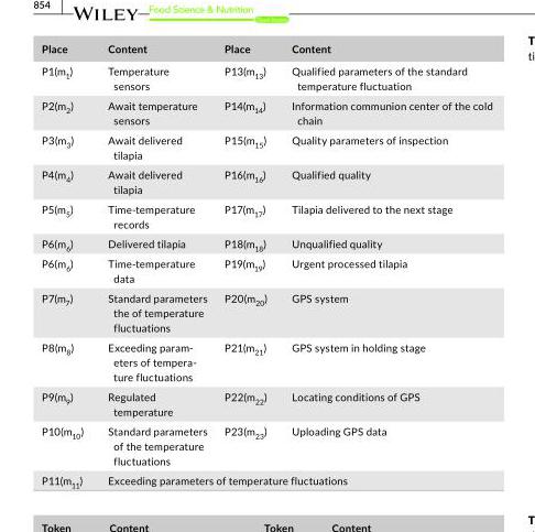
<table><thead><tr><td>Place</td><td>Content</td><td>Place</td><td>Content</td></tr></thead><tbody><tr><td>P1(m<sub>1</sub>)</td><td>Temperature sensors</td><td>P13(m<sub>13</sub>)</td><td>Qualified parameters of the standard temperature fluctuation</td></tr><tr><td>P2(m<sub>2</sub>)</td><td>Await temperature sensors</td><td>P14(m<sub>14</sub>)</td><td>Information communion center of the cold chain</td></tr><tr><td>P3(m<sub>3</sub>)</td><td>Await delivered tilapia</td><td>P15(m<sub>15</sub>)</td><td>Quality parameters of inspection</td></tr><tr><td>P4(m<sub>4</sub>)</td><td>Await delivered tilapia</td><td>P16(m<sub>16</sub>)</td><td>Qualified quality</td></tr><tr><td>P5(m<sub>5</sub>)</td><td>Time- temperature records</td><td>P17(m<sub>17</sub>)</td><td>Tilapia delivered to the next stage</td></tr><tr><td>P6(m<sub>6</sub>)</td><td>Delivered tilapia</td><td>P18(m<sub>18</sub>)</td><td>Unqualified quality</td></tr><tr><td>P6(m<sub>6</sub>)</td><td>Time- temperature data</td><td>P19(m<sub>19</sub>)</td><td>Urgent processed tilapia</td></tr><tr><td>P7(m<sub>7</sub>)</td><td>Standard parameters the of temperature fluctuations</td><td>P20(m<sub>20</sub>)</td><td>GPS system</td></tr><tr><td>P8(m<sub>8</sub>)</td><td>Exceeding param- eters of tempera- ture fluctuations</td><td>P21(m<sub>21</sub>)</td><td>GPS system in holding stage</td></tr><tr><td>P9(m<sub>9</sub>)</td><td>Regulated temperature</td><td>P22(m<sub>22</sub>)</td><td>Locating conditions of GPS</td></tr><tr><td>P10(m<sub>10</sub>)</td><td>Standard parameters of the temperature fluctuations</td><td>P23(m<sub>23</sub>)</td><td>Uploading GPS data</td></tr><tr><td>P11(m<sub>11</sub>)</td><td colspan="3">Exceeding parameters of temperature fluctuations</td></tr></tbody></table>